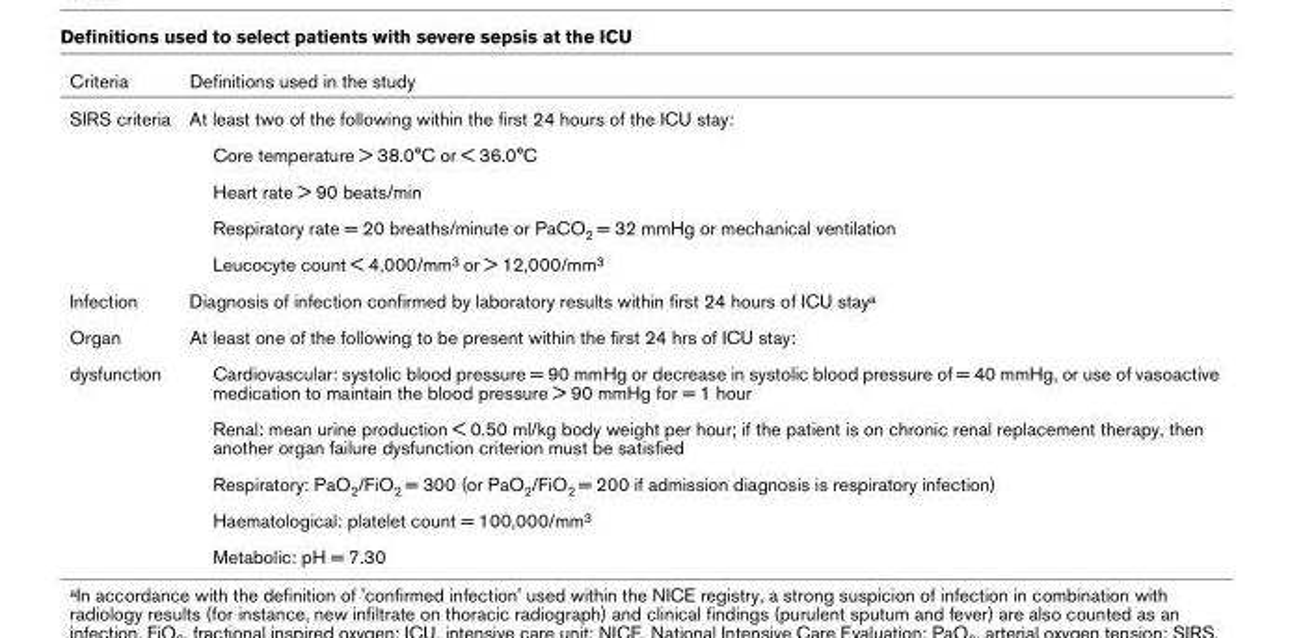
<table><thead><tr><td>Criteria</td><td>Definitions used in the study</td></tr></thead><tbody><tr><td rowspan="5">SIRS criteria</td><td>At least two of the following within the first 24 hours of the ICU stay:</td></tr><tr><td>Core temperature &gt; 38.0°C or &lt; 36.0°C</td></tr><tr><td>Heart rate &gt; 90 beats/min</td></tr><tr><td>Respiratory rate = 20 breaths/minute or PaCO<sub>2</sub> = 32 mmHg or mechanical ventilation</td></tr><tr><td>Leucocyte count &lt; 4,000/mm<sup>3</sup> or &gt; 12,000/mm<sup>3</sup></td></tr><tr><td>Infection</td><td>Diagnosis of infection confirmed by laboratory results within first 24 hours of ICU stay<sup>a</sup></td></tr><tr><td>Organ</td><td>At least one of the following to be present within the first 24 hrs of ICU stay:</td></tr><tr><td rowspan="5">dysfunction</td><td>Cardiovascular: systolic blood pressure = 90 mmHg or decrease in systolic blood pressure of = 40 mmHg, or use of vasoactive medication to maintain the blood pressure &gt; 90 mmHg for = 1 hour</td></tr><tr><td>Renal: mean urine production &lt; 0.50 ml/kg body weight per hour; if the patient is on chronic renal replacement therapy, then another organ failure dysfunction criterion must be satisfied</td></tr><tr><td>Respiratory: PaO<sub>2</sub>/FiO<sub>2</sub> = 300 (or PaO<sub>2</sub>/FiO<sub>2</sub> = 200 if admission diagnosis is respiratory infection)</td></tr><tr><td>Haematological: platelet count = 100,000/mm<sup>3</sup></td></tr><tr><td>Metabolic: pH = 7.30</td></tr></tbody></table>